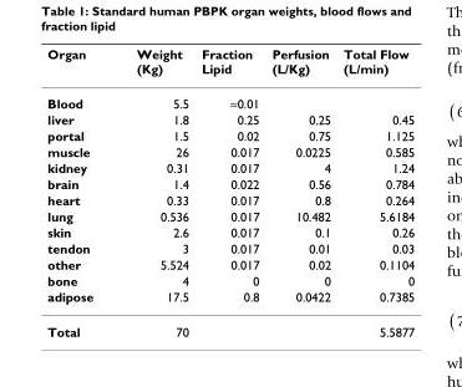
<table><thead><tr><td>Organ</td><td>Weight (Kg)</td><td>Fraction Lipid</td><td>Perfusion (L/Kg)</td><td>Total Flow (L/min)</td></tr></thead><tbody><tr><td>Blood</td><td>5.5</td><td>≈0.01</td><td></td><td></td></tr><tr><td>liver</td><td>1.8</td><td>0.25</td><td>0.25</td><td>0.45</td></tr><tr><td>portal</td><td>1.5</td><td>0.02</td><td>0.75</td><td>1.125</td></tr><tr><td>muscle</td><td>26</td><td>0.017</td><td>0.0225</td><td>0.585</td></tr><tr><td>kidney</td><td>0.31</td><td>0.017</td><td>4</td><td>1.24</td></tr><tr><td>brain</td><td>1.4</td><td>0.022</td><td>0.56</td><td>0.784</td></tr><tr><td>heart</td><td>0.33</td><td>0.017</td><td>0.8</td><td>0.264</td></tr><tr><td>lung</td><td>0.536</td><td>0.017</td><td>10.482</td><td>5.6184</td></tr><tr><td>skin</td><td>2.6</td><td>0.017</td><td>0.1</td><td>0.26</td></tr><tr><td>tendon</td><td>3</td><td>0.017</td><td>0.01</td><td>0.03</td></tr><tr><td>other</td><td>5.524</td><td>0.017</td><td>0.02</td><td>0.1104</td></tr><tr><td>bone</td><td>4</td><td>0</td><td>0</td><td>0</td></tr><tr><td>adipose</td><td>17.5</td><td>0.8</td><td>0.0422</td><td>0.7385</td></tr><tr><td>Total</td><td>70</td><td></td><td></td><td>5.5877</td></tr></tbody></table>